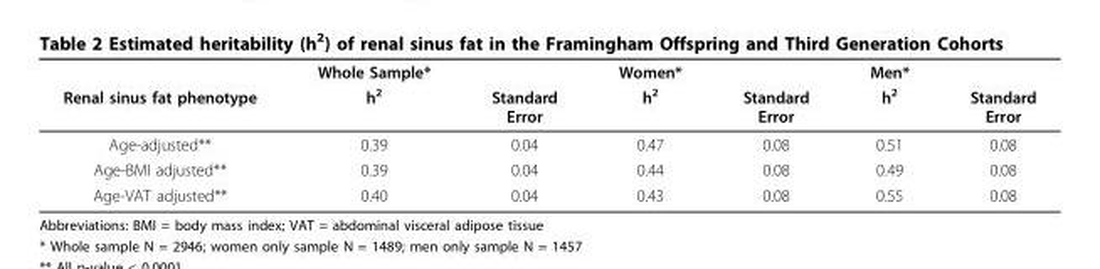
<table><thead><tr><td rowspan="2">Renal sinus fat phenotype</td><td rowspan="2">Whole Sample* h<sup>2</sup></td><td rowspan="2">Standard Error</td><td rowspan="2">Women* h<sup>2</sup></td><td rowspan="2">Standard Error</td><td rowspan="2">Men* h<sup>2</sup></td><td rowspan="2">Standard Error</td></tr><tr></tr></thead><tbody><tr><td>Age-adjusted**</td><td>0.39</td><td>0.04</td><td>0.47</td><td>0.08</td><td>0.51</td><td>0.08</td></tr><tr><td>Age-BMI adjusted**</td><td>0.39</td><td>0.04</td><td>0.44</td><td>0.08</td><td>0.49</td><td>0.08</td></tr><tr><td>Age-VAT adjusted**</td><td>0.40</td><td>0.04</td><td>0.43</td><td>0.08</td><td>0.55</td><td>0.08</td></tr></tbody></table>